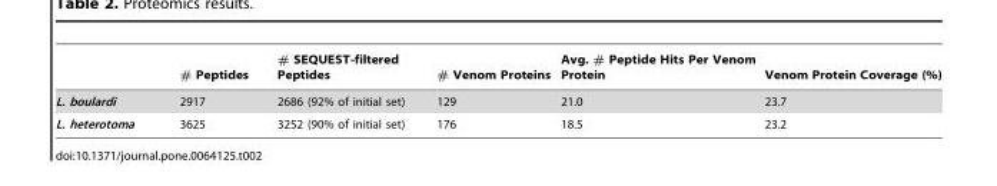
<table><thead><tr><td></td><td># Peptides</td><td># SEQUEST-filtered Peptides</td><td># Venom Proteins</td><td>Avg. # Peptide Hits Per Venom Protein</td><td>Venom Protein Coverage (%)</td></tr></thead><tbody><tr><td>L. boulardi</td><td>2917</td><td>2686 (92% of initial set)</td><td>129</td><td>21.0</td><td>23.7</td></tr><tr><td>L. heterotoma</td><td>3625</td><td>3252 (90% of initial set)</td><td>176</td><td>18.5</td><td>23.2</td></tr></tbody></table>